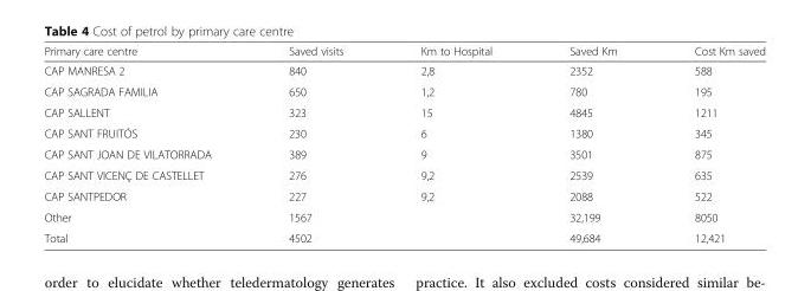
<table><thead><tr><td>Primary care centre</td><td>Saved visits</td><td>Km to Hospital</td><td>Saved Km</td><td>Cost Km saved</td></tr></thead><tbody><tr><td>CAP MANRESA 2</td><td>840</td><td>2,8</td><td>2352</td><td>588</td></tr><tr><td>CAP SAGRADA FAMILIA</td><td>650</td><td>1,2</td><td>780</td><td>195</td></tr><tr><td>CAP SALLENT</td><td>323</td><td>15</td><td>4845</td><td>1211</td></tr><tr><td>CAP SANT FRUITÓS</td><td>230</td><td>6</td><td>1380</td><td>345</td></tr><tr><td>CAP SANT JOAN DE VILATORRADA</td><td>389</td><td>9</td><td>3501</td><td>875</td></tr><tr><td>CAP SANT VICENÇ DE CASTELLET</td><td>276</td><td>9,2</td><td>2539</td><td>635</td></tr><tr><td>CAP SANTPEDOR</td><td>227</td><td>9,2</td><td>2088</td><td>522</td></tr><tr><td>Other</td><td>1567</td><td></td><td>32,199</td><td>8050</td></tr><tr><td>Total</td><td>4502</td><td></td><td>49,684</td><td>12,421</td></tr></tbody></table>